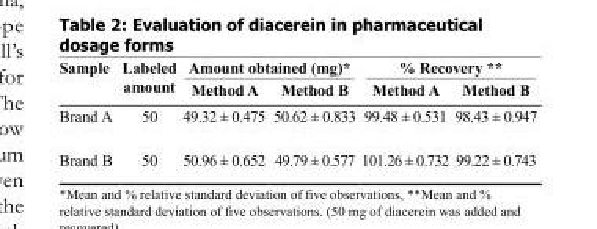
<table><thead><tr><td rowspan="2">Sample</td><td rowspan="2">Labeled amount</td><td colspan="2">Amount obtained (mg)*</td><td colspan="2">% Recovery **</td></tr><tr><td>Method A</td><td>Method B</td><td>Method A</td><td>Method B</td></tr></thead><tbody><tr><td>Brand A</td><td>50</td><td>49.32 ± 0.475</td><td>50.62 ± 0.833</td><td>99.48 ± 0.531</td><td>98.43 ± 0.947</td></tr><tr><td>Brand B</td><td>50</td><td>50.96 ± 0.652</td><td>49.79 ± 0.577</td><td>101.26 ± 0.732</td><td>99.22 ± 0.743</td></tr></tbody></table>